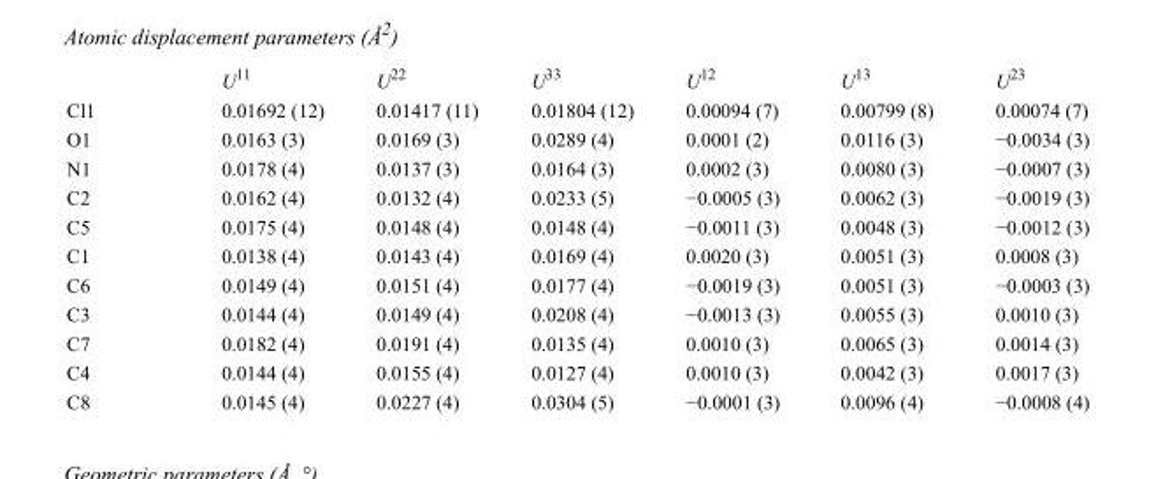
<table><thead><tr><td></td><td>U<sup>11</sup></td><td>U<sup>22</sup></td><td>U<sup>33</sup></td><td>U<sup>12</sup></td><td>U<sup>13</sup></td><td>U<sup>23</sup></td></tr></thead><tbody><tr><td>Cl1</td><td>0.01692 (12)</td><td>0.01417 (11)</td><td>0.01804 (12)</td><td>0.00094 (7)</td><td>0.00799 (8)</td><td>0.00074 (7)</td></tr><tr><td>O1</td><td>0.0163 (3)</td><td>0.0169 (3)</td><td>0.0289 (4)</td><td>0.0001 (2)</td><td>0.0116 (3)</td><td>−0.0034 (3)</td></tr><tr><td>N1</td><td>0.0178 (4)</td><td>0.0137 (3)</td><td>0.0164 (3)</td><td>0.0002 (3)</td><td>0.0080 (3)</td><td>−0.0007 (3)</td></tr><tr><td>C2</td><td>0.0162 (4)</td><td>0.0132 (4)</td><td>0.0233 (5)</td><td>−0.0005 (3)</td><td>0.0062 (3)</td><td>−0.0019 (3)</td></tr><tr><td>C5</td><td>0.0175 (4)</td><td>0.0148 (4)</td><td>0.0148 (4)</td><td>−0.0011 (3)</td><td>0.0048 (3)</td><td>−0.0012 (3)</td></tr><tr><td>C1</td><td>0.0138 (4)</td><td>0.0143 (4)</td><td>0.0169 (4)</td><td>0.0020 (3)</td><td>0.0051 (3)</td><td>0.0008 (3)</td></tr><tr><td>C6</td><td>0.0149 (4)</td><td>0.0151 (4)</td><td>0.0177 (4)</td><td>−0.0019 (3)</td><td>0.0051 (3)</td><td>−0.0003 (3)</td></tr><tr><td>C3</td><td>0.0144 (4)</td><td>0.0149 (4)</td><td>0.0208 (4)</td><td>−0.0013 (3)</td><td>0.0055 (3)</td><td>0.0010 (3)</td></tr><tr><td>C7</td><td>0.0182 (4)</td><td>0.0191 (4)</td><td>0.0135 (4)</td><td>0.0010 (3)</td><td>0.0065 (3)</td><td>0.0014 (3)</td></tr><tr><td>C4</td><td>0.0144 (4)</td><td>0.0155 (4)</td><td>0.0127 (4)</td><td>0.0010 (3)</td><td>0.0042 (3)</td><td>0.0017 (3)</td></tr><tr><td>C8</td><td>0.0145 (4)</td><td>0.0227 (4)</td><td>0.0304 (5)</td><td>−0.0001 (3)</td><td>0.0096 (4)</td><td>−0.0008 (4)</td></tr></tbody></table>